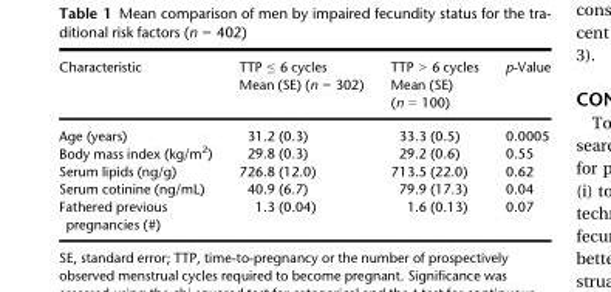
<table><thead><tr><td>Characteristic</td><td>TTP ≤ 6 cycles Mean (SE) (n = 302)</td><td>TTP &gt; 6 cycles Mean (SE) (n = 100)</td><td>p-Value</td></tr></thead><tbody><tr><td>Age (years)</td><td>31.2 (0.3)</td><td>33.3 (0.5)</td><td>0.0005</td></tr><tr><td>Body mass index (kg/m<sup>2</sup>)</td><td>29.8 (0.3)</td><td>29.2 (0.6)</td><td>0.55</td></tr><tr><td>Serum lipids (ng/g)</td><td>726.8 (12.0)</td><td>713.5 (22.0)</td><td>0.62</td></tr><tr><td>Serum cotinine (ng/mL)</td><td>40.9 (6.7)</td><td>79.9 (17.3)</td><td>0.04</td></tr><tr><td>Fathered previous pregnancies (#)</td><td>1.3 (0.04)</td><td>1.6 (0.13)</td><td>0.07</td></tr></tbody></table>